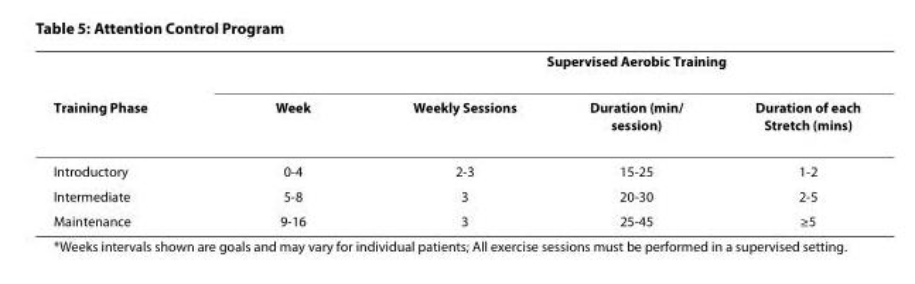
<table><thead><tr><td rowspan="2">Training Phase</td><td rowspan="2">Week</td><td colspan="3">Supervised Aerobic Training</td></tr><tr><td>Weekly Sessions</td><td>Duration (min/ session)</td><td>Duration of each Stretch (mins)</td></tr></thead><tbody><tr><td>Introductory</td><td>0-4</td><td>2-3</td><td>15-25</td><td>1-2</td></tr><tr><td>Intermediate</td><td>5-8</td><td>3</td><td>20-30</td><td>2-5</td></tr><tr><td>Maintenance</td><td>9-16</td><td>3</td><td>25-45</td><td>≥5</td></tr></tbody></table>